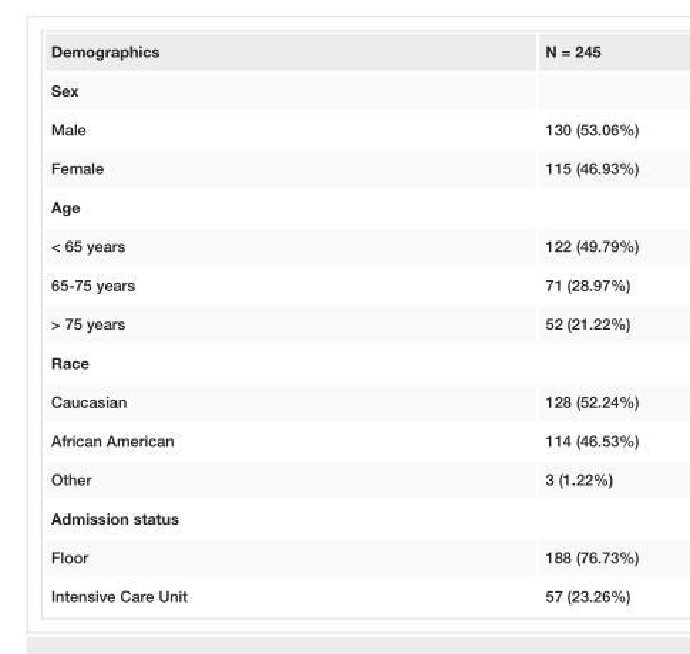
<table><tbody><tr><td>Demographics</td><td>N = 245</td></tr><tr><td colspan="2">Sex</td></tr><tr><td>Male</td><td>130 (53.06%)</td></tr><tr><td>Female</td><td>115 (46.93%)</td></tr><tr><td colspan="2">Age</td></tr><tr><td>&lt; 65 years</td><td>122 (49.79%)</td></tr><tr><td>65-75 years</td><td>71 (28.97%)</td></tr><tr><td>&gt; 75 years</td><td>52 (21.22%)</td></tr><tr><td colspan="2">Race</td></tr><tr><td>Caucasian</td><td>128 (52.24%)</td></tr><tr><td>African American</td><td>114 (46.53%)</td></tr><tr><td>Other</td><td>3 (1.22%)</td></tr><tr><td colspan="2">Admission status</td></tr><tr><td>Floor</td><td>188 (76.73%)</td></tr><tr><td>Intensive Care Unit</td><td>57 (23.26%)</td></tr></tbody></table>